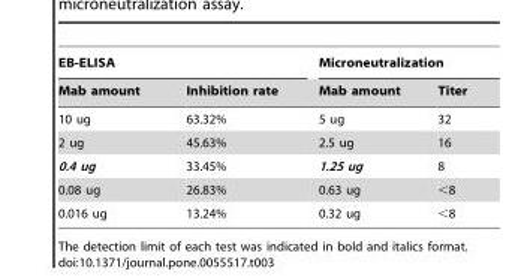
<table><thead><tr><td colspan="2">EB-ELISA</td><td colspan="2">Microneutralization</td></tr><tr><td>Mab amount</td><td>Inhibition rate</td><td>Mab amount</td><td>Titer</td></tr></thead><tbody><tr><td>10 ug</td><td>63.32%</td><td>5 ug</td><td>32</td></tr><tr><td>2 ug</td><td>45.63%</td><td>2.5 ug</td><td>16</td></tr><tr><td>0.4 ug</td><td>33.45%</td><td>1.25 ug</td><td>8</td></tr><tr><td>0.08 ug</td><td>26.83%</td><td>0.63 ug</td><td>&lt;8</td></tr><tr><td>0.016 ug</td><td>13.24%</td><td>0.32 ug</td><td>&lt;8</td></tr></tbody></table>